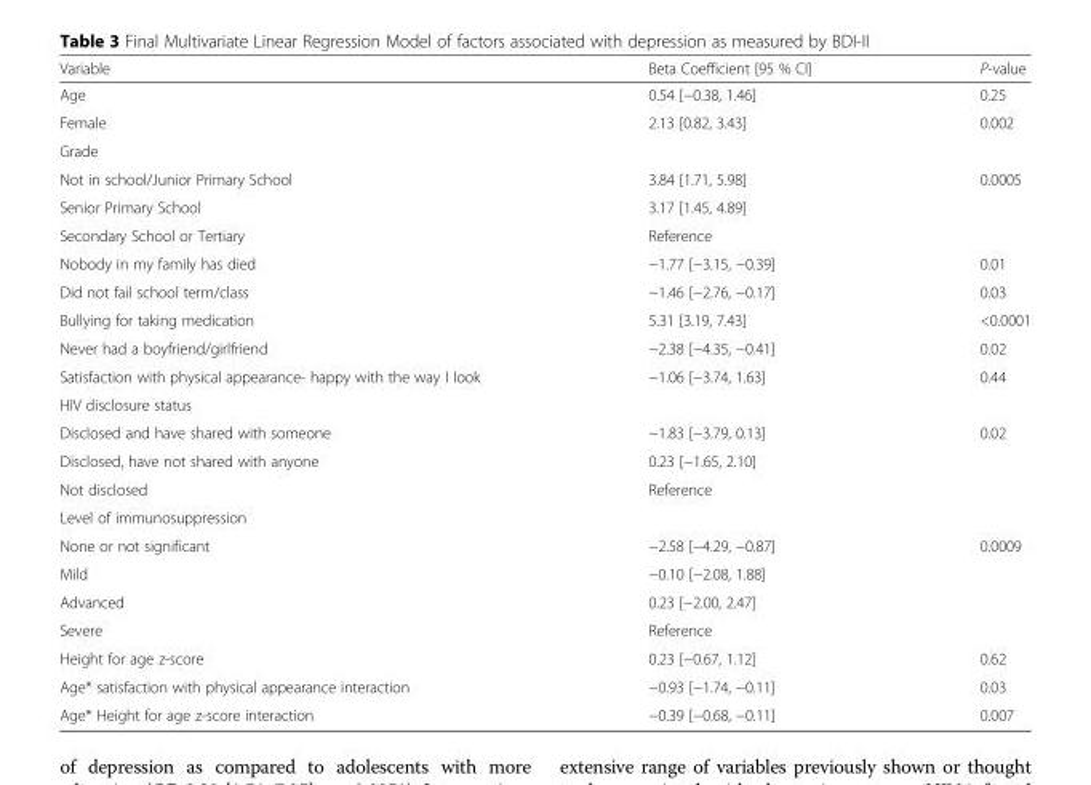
<table><thead><tr><td>Variable</td><td>Beta Coefficient [95 % CI]</td><td>P-value</td></tr></thead><tbody><tr><td>Age</td><td>0.54 [−0.38, 1.46]</td><td>0.25</td></tr><tr><td>Female</td><td>2.13 [0.82, 3.43]</td><td>0.002</td></tr><tr><td colspan="3">Grade</td></tr><tr><td>Not in school/Junior Primary School</td><td>3.84 [1.71, 5.98]</td><td rowspan="3">0.0005</td></tr><tr><td>Senior Primary School</td><td>3.17 [1.45, 4.89]</td></tr><tr><td>Secondary School or Tertiary</td><td>Reference</td></tr><tr><td>Nobody in my family has died</td><td>−1.77 [−3.15, −0.39]</td><td>0.01</td></tr><tr><td>Did not fail school term/class</td><td>−1.46 [−2.76, −0.17]</td><td>0.03</td></tr><tr><td>Bullying for taking medication</td><td>5.31 [3.19, 7.43]</td><td>&lt;0.0001</td></tr><tr><td>Never had a boyfriend/girlfriend</td><td>−2.38 [−4.35, −0.41]</td><td>0.02</td></tr><tr><td>Satisfaction with physical appearance- happy with the way I look</td><td>−1.06 [−3.74, 1.63]</td><td>0.44</td></tr><tr><td colspan="3">HIV disclosure status</td></tr><tr><td>Disclosed and have shared with someone</td><td>−1.83 [−3.79, 0.13]</td><td rowspan="3">0.02</td></tr><tr><td>Disclosed, have not shared with anyone</td><td>0.23 [−1.65, 2.10]</td></tr><tr><td>Not disclosed</td><td>Reference</td></tr><tr><td colspan="3">Level of immunosuppression</td></tr><tr><td>None or not significant</td><td>−2.58 [−4.29, −0.87]</td><td rowspan="4">0.0009</td></tr><tr><td>Mild</td><td>−0.10 [−2.08, 1.88]</td></tr><tr><td>Advanced</td><td>0.23 [−2.00, 2.47]</td></tr><tr><td>Severe</td><td>Reference</td></tr><tr><td>Height for age z-score</td><td>0.23 [−0.67, 1.12]</td><td>0.62</td></tr><tr><td>Age* satisfaction with physical appearance interaction</td><td>−0.93 [−1.74, −0.11]</td><td>0.03</td></tr><tr><td>Age* Height for age z-score interaction</td><td>−0.39 [−0.68, −0.11]</td><td>0.007</td></tr></tbody></table>